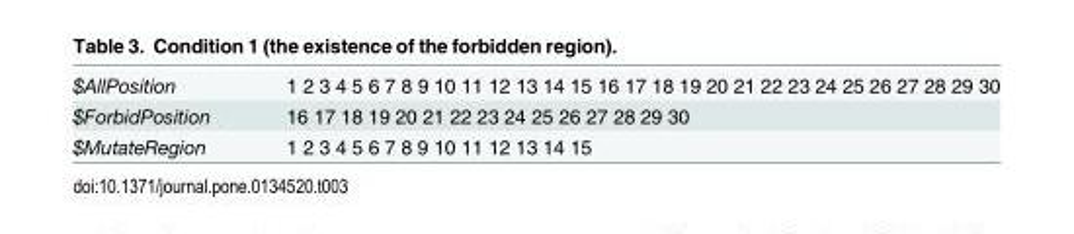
<table><tbody><tr><td>$AllPosition</td><td>1 2 3 4 5 6 7 8 9 10 11 12 13 14 15 16 17 18 19 20 21 22 23 24 25 26 27 28 29 30</td></tr><tr><td>$ForbidPosition</td><td>16 17 18 19 20 21 22 23 24 25 26 27 28 29 30</td></tr><tr><td>$MutateRegion</td><td>1 2 3 4 5 6 7 8 9 10 11 12 13 14 15</td></tr></tbody></table>